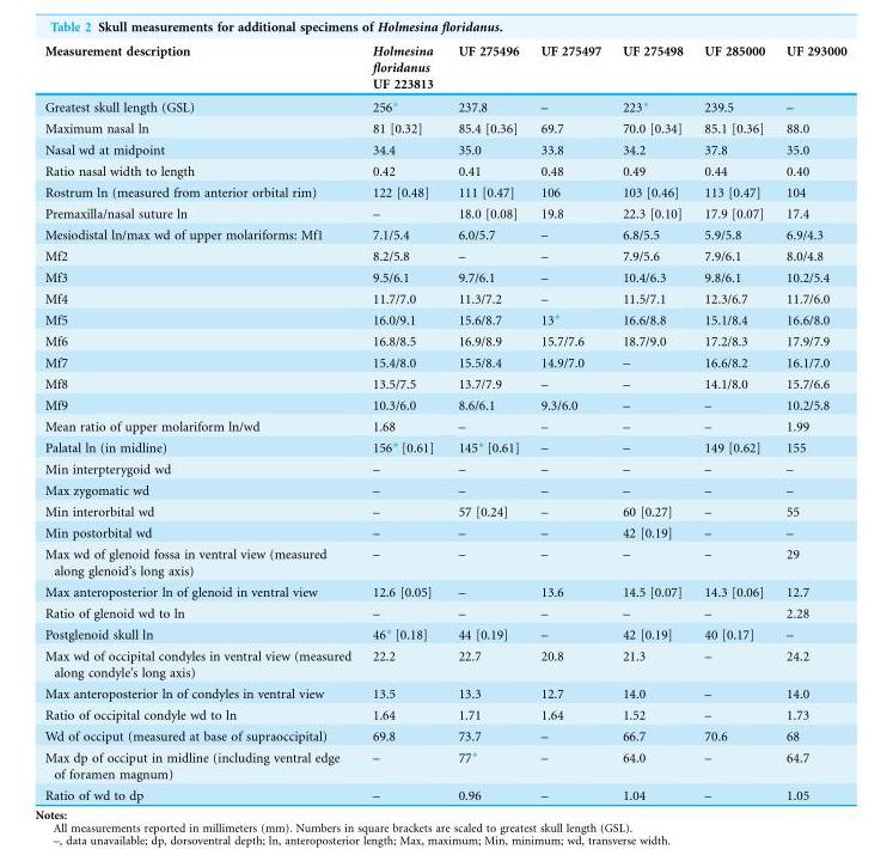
<table><thead><tr><td>Measurement description</td><td>Holmesina floridanus UF 223813</td><td>UF 275496</td><td>UF 275497</td><td>UF 275498</td><td>UF 285000</td><td>UF 293000</td></tr></thead><tbody><tr><td>Greatest skull length (GSL)</td><td>256*</td><td>237.8</td><td>–</td><td>223*</td><td>239.5</td><td>–</td></tr><tr><td>Maximum nasal ln</td><td>81 [0.32]</td><td>85.4 [0.36]</td><td>69.7</td><td>70.0 [0.34]</td><td>85.1 [0.36]</td><td>88.0</td></tr><tr><td>Nasal wd at midpoint</td><td>34.4</td><td>35.0</td><td>33.8</td><td>34.2</td><td>37.8</td><td>35.0</td></tr><tr><td>Ratio nasal width to length</td><td>0.42</td><td>0.41</td><td>0.48</td><td>0.49</td><td>0.44</td><td>0.40</td></tr><tr><td>Rostrum ln (measured from anterior orbital rim)</td><td>122 [0.48]</td><td>111 [0.47]</td><td>106</td><td>103 [0.46]</td><td>113 [0.47]</td><td>104</td></tr><tr><td>Premaxilla/nasal suture ln</td><td>–</td><td>18.0 [0.08]</td><td>19.8</td><td>22.3 [0.10]</td><td>17.9 [0.07]</td><td>17.4</td></tr><tr><td>Mesiodistal ln/max wd of upper molariforms: Mf1</td><td>7.1/5.4</td><td>6.0/5.7</td><td>–</td><td>6.8/5.5</td><td>5.9/5.8</td><td>6.9/4.3</td></tr><tr><td>Mf2</td><td>8.2/5.8</td><td>–</td><td>–</td><td>7.9/5.6</td><td>7.9/6.1</td><td>8.0/4.8</td></tr><tr><td>Mf3</td><td>9.5/6.1</td><td>9.7/6.1</td><td>–</td><td>10.4/6.3</td><td>9.8/6.1</td><td>10.2/5.4</td></tr><tr><td>Mf4</td><td>11.7/7.0</td><td>11.3/7.2</td><td>–</td><td>11.5/7.1</td><td>12.3/6.7</td><td>11.7/6.0</td></tr><tr><td>Mf5</td><td>16.0/9.1</td><td>15.6/8.7</td><td>13*</td><td>16.6/8.8</td><td>15.1/8.4</td><td>16.6/8.0</td></tr><tr><td>Mf6</td><td>16.8/8.5</td><td>16.9/8.9</td><td>15.7/7.6</td><td>18.7/9.0</td><td>17.2/8.3</td><td>17.9/7.9</td></tr><tr><td>Mf7</td><td>15.4/8.0</td><td>15.5/8.4</td><td>14.9/7.0</td><td>–</td><td>16.6/8.2</td><td>16.1/7.0</td></tr><tr><td>Mf8</td><td>13.5/7.5</td><td>13.7/7.9</td><td>–</td><td>–</td><td>14.1/8.0</td><td>15.7/6.6</td></tr><tr><td>Mf9</td><td>10.3/6.0</td><td>8.6/6.1</td><td>9.3/6.0</td><td>–</td><td>–</td><td>10.2/5.8</td></tr><tr><td>Mean ratio of upper molariform ln/wd</td><td>1.68</td><td>–</td><td>–</td><td>–</td><td>–</td><td>1.99</td></tr><tr><td>Palatal ln (in midline)</td><td>156* [0.61]</td><td>145* [0.61]</td><td>–</td><td>–</td><td>149 [0.62]</td><td>155</td></tr><tr><td>Min interpterygoid wd</td><td>–</td><td>–</td><td>–</td><td>–</td><td>–</td><td>–</td></tr><tr><td>Max zygomatic wd</td><td>–</td><td>–</td><td>–</td><td>–</td><td>–</td><td>–</td></tr><tr><td>Min interorbital wd</td><td>–</td><td>57 [0.24]</td><td>–</td><td>60 [0.27]</td><td>–</td><td>55</td></tr><tr><td>Min postorbital wd</td><td>–</td><td>–</td><td>–</td><td>42 [0.19]</td><td>–</td><td>–</td></tr><tr><td>Max wd of glenoid fossa in ventral view (measured along glenoid’s long axis)</td><td>–</td><td>–</td><td>–</td><td>–</td><td>–</td><td>29</td></tr><tr><td>Max anteroposterior ln of glenoid in ventral view</td><td>12.6 [0.05]</td><td>–</td><td>13.6</td><td>14.5 [0.07]</td><td>14.3 [0.06]</td><td>12.7</td></tr><tr><td>Ratio of glenoid wd to ln</td><td>–</td><td>–</td><td>–</td><td>–</td><td>–</td><td>2.28</td></tr><tr><td>Postglenoid skull ln</td><td>46* [0.18]</td><td>44 [0.19]</td><td>–</td><td>42 [0.19]</td><td>40 [0.17]</td><td>–</td></tr><tr><td>Max wd of occipital condyles in ventral view (measured along condyle’s long axis)</td><td>22.2</td><td>22.7</td><td>20.8</td><td>21.3</td><td>–</td><td>24.2</td></tr><tr><td>Max anteroposterior ln of condyles in ventral view</td><td>13.5</td><td>13.3</td><td>12.7</td><td>14.0</td><td>–</td><td>14.0</td></tr><tr><td>Ratio of occipital condyle wd to ln</td><td>1.64</td><td>1.71</td><td>1.64</td><td>1.52</td><td>–</td><td>1.73</td></tr><tr><td>Wd of occiput (measured at base of supraoccipital)</td><td>69.8</td><td>73.7</td><td>–</td><td>66.7</td><td>70.6</td><td>68</td></tr><tr><td>Max dp of occiput in midline (including ventral edge of foramen magnum)</td><td>–</td><td>77*</td><td>–</td><td>64.0</td><td>–</td><td>64.7</td></tr><tr><td>Ratio of wd to dp</td><td>–</td><td>0.96</td><td>–</td><td>1.04</td><td>–</td><td>1.05</td></tr></tbody></table>